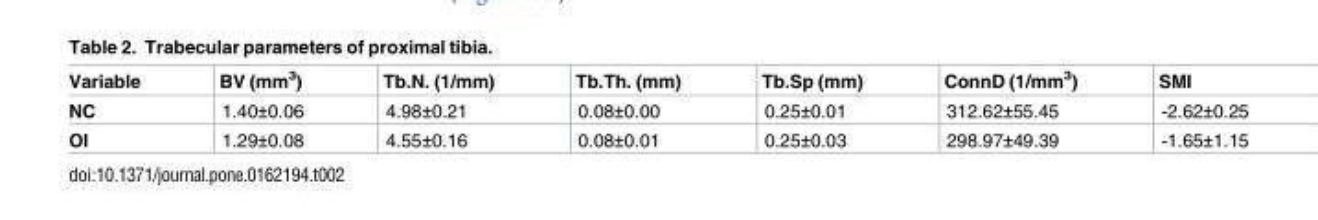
<table><thead><tr><td>Variable</td><td>BV (mm<sup>3</sup>)</td><td>Tb.N. (1/mm)</td><td>Tb.Th. (mm)</td><td>Tb.Sp (mm)</td><td>ConnD (1/mm<sup>3</sup>)</td><td>SMI</td></tr></thead><tbody><tr><td>NC</td><td>1.40±0.06</td><td>4.98±0.21</td><td>0.08±0.00</td><td>0.25±0.01</td><td>312.62±55.45</td><td>-2.62±0.25</td></tr><tr><td>OI</td><td>1.29±0.08</td><td>4.55±0.16</td><td>0.08±0.01</td><td>0.25±0.03</td><td>298.97±49.39</td><td>-1.65±1.15</td></tr></tbody></table>